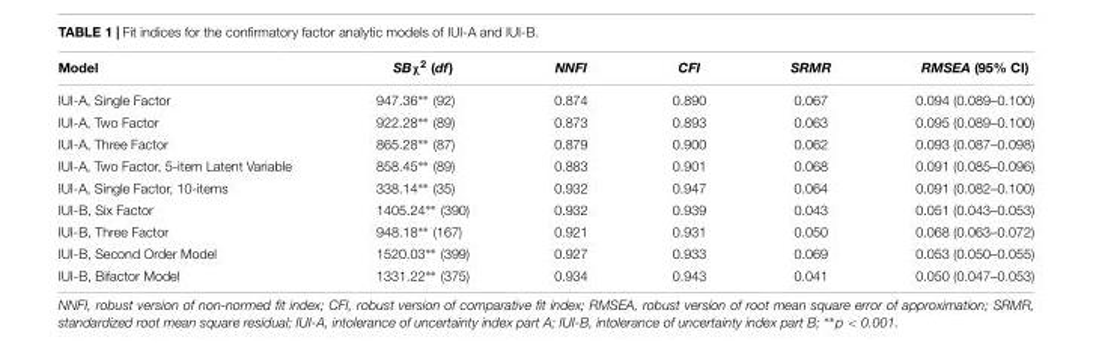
<table><thead><tr><td>Model</td><td>SBχ<sup>2</sup> (df)</td><td>NNFI</td><td>CFI</td><td>SRMR</td><td>RMSEA (95% CI)</td></tr></thead><tbody><tr><td>IUI-A, Single Factor</td><td>947.36∗∗ (92)</td><td>0.874</td><td>0.890</td><td>0.067</td><td>0.094 (0.089–0.100)</td></tr><tr><td>IUI-A, Two Factor</td><td>922.28∗∗ (89)</td><td>0.873</td><td>0.893</td><td>0.063</td><td>0.095 (0.089–0.100)</td></tr><tr><td>IUI-A, Three Factor</td><td>865.28∗∗ (87)</td><td>0.879</td><td>0.900</td><td>0.062</td><td>0.093 (0.087–0.098)</td></tr><tr><td>IUI-A, Two Factor, 5-item Latent Variable</td><td>858.45∗∗ (89)</td><td>0.883</td><td>0.901</td><td>0.068</td><td>0.091 (0.085–0.096)</td></tr><tr><td>IUI-A, Single Factor, 10-items</td><td>338.14∗∗ (35)</td><td>0.932</td><td>0.947</td><td>0.064</td><td>0.091 (0.082–0.100)</td></tr><tr><td>IUI-B, Six Factor</td><td>1405.24∗∗ (390)</td><td>0.932</td><td>0.939</td><td>0.043</td><td>0.051 (0.043–0.053)</td></tr><tr><td>IUI-B, Three Factor</td><td>948.18∗∗ (167)</td><td>0.921</td><td>0.931</td><td>0.050</td><td>0.068 (0.063–0.072)</td></tr><tr><td>IUI-B, Second Order Model</td><td>1520.03∗∗ (399)</td><td>0.927</td><td>0.933</td><td>0.069</td><td>0.053 (0.050–0.055)</td></tr><tr><td>IUI-B, Bifactor Model</td><td>1331.22∗∗ (375)</td><td>0.934</td><td>0.943</td><td>0.041</td><td>0.050 (0.047–0.053)</td></tr></tbody></table>